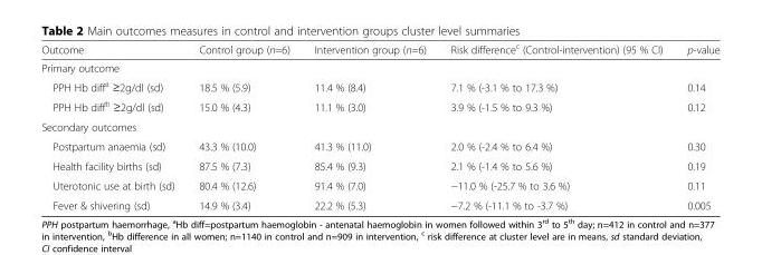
<table><thead><tr><td>Outcome</td><td>Control group (n=6)</td><td>Intervention group (n=6)</td><td>Risk difference<sup>c</sup> (Control-intervention) (95 % CI)</td><td>p-value</td></tr></thead><tbody><tr><td colspan="5">Primary outcome</td></tr><tr><td>PPH Hb diff<sup>a</sup> ≥2g/dl (sd)</td><td>18.5 % (5.9)</td><td>11.4 % (8.4)</td><td>7.1 % (-3.1 % to 17.3 %)</td><td>0.14</td></tr><tr><td>PPH Hb diff<sup>b</sup> ≥2g/dl (sd)</td><td>15.0 % (4.3)</td><td>11.1 % (3.0)</td><td>3.9 % (-1.5 % to 9.3 %)</td><td>0.12</td></tr><tr><td colspan="5">Secondary outcomes</td></tr><tr><td>Postpartum anaemia (sd)</td><td>43.3 % (10.0)</td><td>41.3 % (11.0)</td><td>2.0 % (-2.4 % to 6.4 %)</td><td>0.30</td></tr><tr><td>Health facility births (sd)</td><td>87.5 % (7.3)</td><td>85.4 % (9.3)</td><td>2.1 % (-1.4 % to 5.6 %)</td><td>0.19</td></tr><tr><td>Uterotonic use at birth (sd)</td><td>80.4 % (12.6)</td><td>91.4 % (7.0)</td><td>−11.0 % (-25.7 % to 3.6 %)</td><td>0.11</td></tr><tr><td>Fever &amp; shivering (sd)</td><td>14.9 % (3.4)</td><td>22.2 % (5.3)</td><td>−7.2 % (-11.1 % to -3.7 %)</td><td>0.005</td></tr></tbody></table>